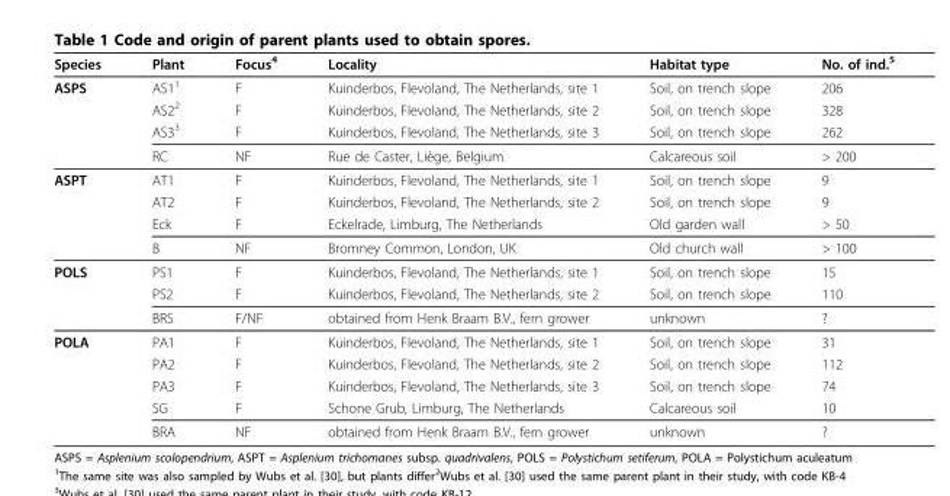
<table><thead><tr><td>Species</td><td>Plant</td><td>Focus<sup>4</sup></td><td>Locality</td><td>Habitat type</td><td>No. of ind.<sup>5</sup></td></tr></thead><tbody><tr><td rowspan="4">ASPS</td><td>AS1<sup>1</sup></td><td>F</td><td>Kuinderbos, Flevoland, The Netherlands, site 1</td><td>Soil, on trench slope</td><td>206</td></tr><tr><td>AS2<sup>2</sup></td><td>F</td><td>Kuinderbos, Flevoland, The Netherlands, site 2</td><td>Soil, on trench slope</td><td>328</td></tr><tr><td>AS3<sup>3</sup></td><td>F</td><td>Kuinderbos, Flevoland, The Netherlands, site 3</td><td>Soil, on trench slope</td><td>262</td></tr><tr><td>RC</td><td>NF</td><td>Rue de Caster, Liège, Belgium</td><td>Calcareous soil</td><td>&gt; 200</td></tr><tr><td rowspan="4">ASPT</td><td>AT1</td><td>F</td><td>Kuinderbos, Flevoland, The Netherlands, site 1</td><td>Soil, on trench slope</td><td>9</td></tr><tr><td>AT2</td><td>F</td><td>Kuinderbos, Flevoland, The Netherlands, site 2</td><td>Soil, on trench slope</td><td>9</td></tr><tr><td>Eck</td><td>F</td><td>Eckelrade, Limburg, The Netherlands</td><td>Old garden wall</td><td>&gt; 50</td></tr><tr><td>B</td><td>NF</td><td>Bromney Common, London, UK</td><td>Old church wall</td><td>&gt; 100</td></tr><tr><td rowspan="3">POLS</td><td>PS1</td><td>F</td><td>Kuinderbos, Flevoland, The Netherlands, site 1</td><td>Soil, on trench slope</td><td>15</td></tr><tr><td>PS2</td><td>F</td><td>Kuinderbos, Flevoland, The Netherlands, site 2</td><td>Soil, on trench slope</td><td>110</td></tr><tr><td>BRS</td><td>F/NF</td><td>obtained from Henk Braam B.V., fern grower</td><td>unknown</td><td>?</td></tr><tr><td rowspan="5">POLA</td><td>PA1</td><td>F</td><td>Kuinderbos, Flevoland, The Netherlands, site 1</td><td>Soil, on trench slope</td><td>31</td></tr><tr><td>PA2</td><td>F</td><td>Kuinderbos, Flevoland, The Netherlands, site 2</td><td>Soil, on trench slope</td><td>112</td></tr><tr><td>PA3</td><td>F</td><td>Kuinderbos, Flevoland, The Netherlands, site 3</td><td>Soil, on trench slope</td><td>74</td></tr><tr><td>SG</td><td>F</td><td>Schone Grub, Limburg, The Netherlands</td><td>Calcareous soil</td><td>10</td></tr><tr><td>BRA</td><td>NF</td><td>obtained from Henk Braam B.V., fern grower</td><td>unknown</td><td>?</td></tr></tbody></table>